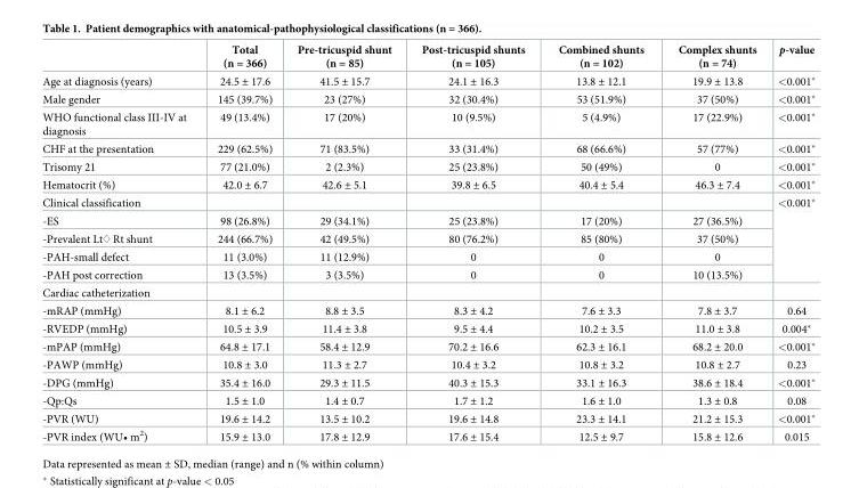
<table><thead><tr><td></td><td>Total (n = 366)</td><td>Pre-tricuspid shunt (n = 85)</td><td>Post-tricuspid shunts (n = 105)</td><td>Combined shunts (n = 102)</td><td>Complex shunts (n = 74)</td><td>p-value</td></tr></thead><tbody><tr><td>Age at diagnosis (years)</td><td>24.5 ± 17.6</td><td>41.5 ± 15.7</td><td>24.1 ± 16.3</td><td>13.8 ± 12.1</td><td>19.9 ± 13.8</td><td>&lt;0.001*</td></tr><tr><td>Male gender</td><td>145 (39.7%)</td><td>23 (27%)</td><td>32 (30.4%)</td><td>53 (51.9%)</td><td>37 (50%)</td><td>&lt;0.001*</td></tr><tr><td>WHO functional class III-IV at diagnosis</td><td>49 (13.4%)</td><td>17 (20%)</td><td>10 (9.5%)</td><td>5 (4.9%)</td><td>17 (22.9%)</td><td>&lt;0.001*</td></tr><tr><td>CHF at the presentation</td><td>229 (62.5%)</td><td>71 (83.5%)</td><td>33 (31.4%)</td><td>68 (66.6%)</td><td>57 (77%)</td><td>&lt;0.001*</td></tr><tr><td>Trisomy 21</td><td>77 (21.0%)</td><td>2 (2.3%)</td><td>25 (23.8%)</td><td>50 (49%)</td><td>0</td><td>&lt;0.001*</td></tr><tr><td>Hematocrit (%)</td><td>42.0 ± 6.7</td><td>42.6 ± 5.1</td><td>39.8 ± 6.5</td><td>40.4 ± 5.4</td><td>46.3 ± 7.4</td><td>&lt;0.001*</td></tr><tr><td colspan="6">Clinical classification</td><td rowspan="5">&lt;0.001*</td></tr><tr><td>-ES</td><td>98 (26.8%)</td><td>29 (34.1%)</td><td>25 (23.8%)</td><td>17 (20%)</td><td>27 (36.5%)</td></tr><tr><td>-Prevalent Lt♢ Rt shunt</td><td>244 (66.7%)</td><td>42 (49.5%)</td><td>80 (76.2%)</td><td>85 (80%)</td><td>37 (50%)</td></tr><tr><td>-PAH-small defect</td><td>11 (3.0%)</td><td>11 (12.9%)</td><td>0</td><td>0</td><td>0</td></tr><tr><td>-PAH post correction</td><td>13 (3.5%)</td><td>3 (3.5%)</td><td>0</td><td>0</td><td>10 (13.5%)</td></tr><tr><td colspan="7">Cardiac catheterization</td></tr><tr><td>-mRAP (mmHg)</td><td>8.1 ± 6.2</td><td>8.8 ± 3.5</td><td>8.3 ± 4.2</td><td>7.6 ± 3.3</td><td>7.8 ± 3.7</td><td>0.64</td></tr><tr><td>-RVEDP (mmHg)</td><td>10.5 ± 3.9</td><td>11.4 ± 3.8</td><td>9.5 ± 4.4</td><td>10.2 ± 3.5</td><td>11.0 ± 3.8</td><td>0.004*</td></tr><tr><td>-mPAP (mmHg)</td><td>64.8 ± 17.1</td><td>58.4 ± 12.9</td><td>70.2 ± 16.6</td><td>62.3 ± 16.1</td><td>68.2 ± 20.0</td><td>&lt;0.001*</td></tr><tr><td>-PAWP (mmHg)</td><td>10.8 ± 3.0</td><td>11.3 ± 2.7</td><td>10.4 ± 3.2</td><td>10.8 ± 3.2</td><td>10.8 ± 2.7</td><td>0.23</td></tr><tr><td>-DPG (mmHg)</td><td>35.4 ± 16.0</td><td>29.3 ± 11.5</td><td>40.3 ± 15.3</td><td>33.1 ± 16.3</td><td>38.6 ± 18.4</td><td>&lt;0.001*</td></tr><tr><td>-Qp:Qs</td><td>1.5 ± 1.0</td><td>1.4 ± 0.7</td><td>1.7 ± 1.2</td><td>1.6 ± 1.0</td><td>1.3 ± 0.8</td><td>0.08</td></tr><tr><td>-PVR (WU)</td><td>19.6 ± 14.2</td><td>13.5 ± 10.2</td><td>19.6 ± 14.8</td><td>23.3 ± 14.1</td><td>21.2 ± 15.3</td><td>&lt;0.001*</td></tr><tr><td>-PVR index (WU• m<sup>2</sup>)</td><td>15.9 ± 13.0</td><td>17.8 ± 12.9</td><td>17.6 ± 15.4</td><td>12.5 ± 9.7</td><td>15.8 ± 12.6</td><td>0.015</td></tr></tbody></table>